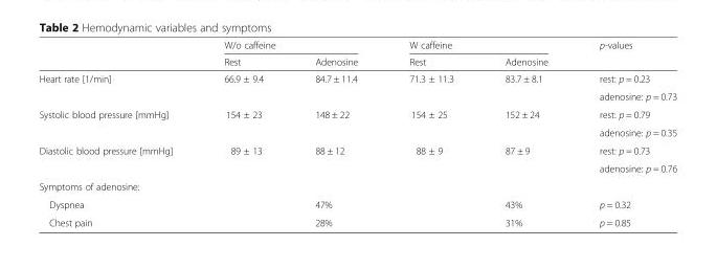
<table><thead><tr><td rowspan="2"></td><td colspan="2">W/o caffeine</td><td colspan="2">W caffeine</td><td rowspan="2">p-values</td></tr><tr><td>Rest</td><td>Adenosine</td><td>Rest</td><td>Adenosine</td></tr></thead><tbody><tr><td rowspan="2">Heart rate [1/min]</td><td rowspan="2">66.9 ± 9.4</td><td rowspan="2">84.7 ± 11.4</td><td rowspan="2">71.3 ± 11.3</td><td rowspan="2">83.7 ± 8.1</td><td>rest: p = 0.23</td></tr><tr><td>adenosine: p = 0.73</td></tr><tr><td rowspan="2">Systolic blood pressure [mmHg]</td><td rowspan="2">154 ± 23</td><td rowspan="2">148 ± 22</td><td rowspan="2">154 ± 25</td><td rowspan="2">152 ± 24</td><td>rest: p = 0.79</td></tr><tr><td>adenosine: p = 0.35</td></tr><tr><td rowspan="2">Diastolic blood pressure [mmHg]</td><td rowspan="2">89 ± 13</td><td rowspan="2">88 ± 12</td><td rowspan="2">88 ± 9</td><td rowspan="2">87 ± 9</td><td>rest: p = 0.73</td></tr><tr><td>adenosine: p = 0.76</td></tr><tr><td colspan="6">Symptoms of adenosine:</td></tr><tr><td>Dyspnea</td><td></td><td>47%</td><td></td><td>43%</td><td>p = 0.32</td></tr><tr><td>Chest pain</td><td></td><td>28%</td><td></td><td>31%</td><td>p = 0.85</td></tr></tbody></table>